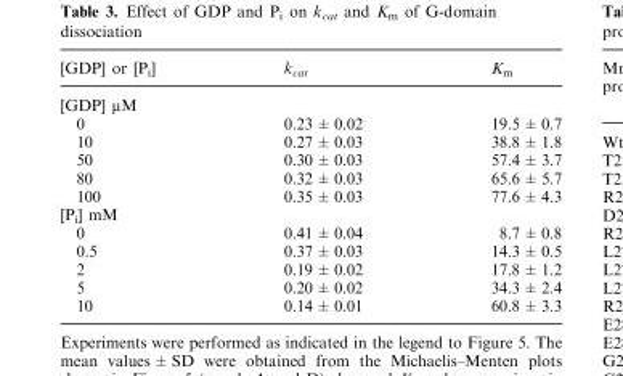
<table><thead><tr><td>[GDP] or [P<sub>i</sub>]</td><td>k<sub>cat</sub></td><td>K<sub>m</sub></td></tr></thead><tbody><tr><td colspan="3">[GDP] μM</td></tr><tr><td>0</td><td>0.23 ± 0.02</td><td>19.5 ± 0.7</td></tr><tr><td>10</td><td>0.27 ± 0.03</td><td>38.8 ± 1.8</td></tr><tr><td>50</td><td>0.30 ± 0.03</td><td>57.4 ± 3.7</td></tr><tr><td>80</td><td>0.32 ± 0.03</td><td>65.6 ± 5.7</td></tr><tr><td>100</td><td>0.35 ± 0.03</td><td>77.6 ± 4.3</td></tr><tr><td colspan="3">[P<sub>i</sub>] mM</td></tr><tr><td>0</td><td>0.41 ± 0.04</td><td>8.7 ± 0.8</td></tr><tr><td>0.5</td><td>0.37 ± 0.03</td><td>14.3 ± 0.5</td></tr><tr><td>2</td><td>0.19 ± 0.02</td><td>17.8 ± 1.2</td></tr><tr><td>5</td><td>0.20 ± 0.02</td><td>34.3 ± 2.4</td></tr><tr><td>10</td><td>0.14 ± 0.01</td><td>60.8 ± 3.3</td></tr></tbody></table>